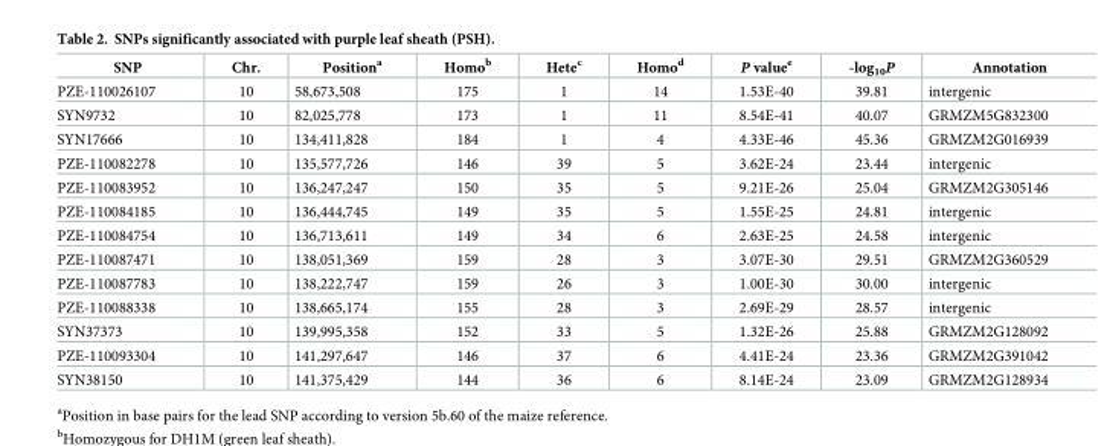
<table><thead><tr><td>SNP</td><td>Chr.</td><td>Position<sup>a</sup></td><td>Homo<sup>b</sup></td><td>Hete<sup>c</sup></td><td>Homo<sup>d</sup></td><td>P value<sup>e</sup></td><td>-log<sub>10</sub>P</td><td>Annotation</td></tr></thead><tbody><tr><td>PZE-110026107</td><td>10</td><td>58,673,508</td><td>175</td><td>1</td><td>14</td><td>1.53E-40</td><td>39.81</td><td>intergenic</td></tr><tr><td>SYN9732</td><td>10</td><td>82,025,778</td><td>173</td><td>1</td><td>11</td><td>8.54E-41</td><td>40.07</td><td>GRMZM5G832300</td></tr><tr><td>SYN17666</td><td>10</td><td>134,411,828</td><td>184</td><td>1</td><td>4</td><td>4.33E-46</td><td>45.36</td><td>GRMZM2G016939</td></tr><tr><td>PZE-110082278</td><td>10</td><td>135,577,726</td><td>146</td><td>39</td><td>5</td><td>3.62E-24</td><td>23.44</td><td>intergenic</td></tr><tr><td>PZE-110083952</td><td>10</td><td>136,247,247</td><td>150</td><td>35</td><td>5</td><td>9.21E-26</td><td>25.04</td><td>GRMZM2G305146</td></tr><tr><td>PZE-110084185</td><td>10</td><td>136,444,745</td><td>149</td><td>35</td><td>5</td><td>1.55E-25</td><td>24.81</td><td>intergenic</td></tr><tr><td>PZE-110084754</td><td>10</td><td>136,713,611</td><td>149</td><td>34</td><td>6</td><td>2.63E-25</td><td>24.58</td><td>intergenic</td></tr><tr><td>PZE-110087471</td><td>10</td><td>138,051,369</td><td>159</td><td>28</td><td>3</td><td>3.07E-30</td><td>29.51</td><td>GRMZM2G360529</td></tr><tr><td>PZE-110087783</td><td>10</td><td>138,222,747</td><td>159</td><td>26</td><td>3</td><td>1.00E-30</td><td>30.00</td><td>intergenic</td></tr><tr><td>PZE-110088338</td><td>10</td><td>138,665,174</td><td>155</td><td>28</td><td>3</td><td>2.69E-29</td><td>28.57</td><td>intergenic</td></tr><tr><td>SYN37373</td><td>10</td><td>139,995,358</td><td>152</td><td>33</td><td>5</td><td>1.32E-26</td><td>25.88</td><td>GRMZM2G128092</td></tr><tr><td>PZE-110093304</td><td>10</td><td>141,297,647</td><td>146</td><td>37</td><td>6</td><td>4.41E-24</td><td>23.36</td><td>GRMZM2G391042</td></tr><tr><td>SYN38150</td><td>10</td><td>141,375,429</td><td>144</td><td>36</td><td>6</td><td>8.14E-24</td><td>23.09</td><td>GRMZM2G128934</td></tr></tbody></table>